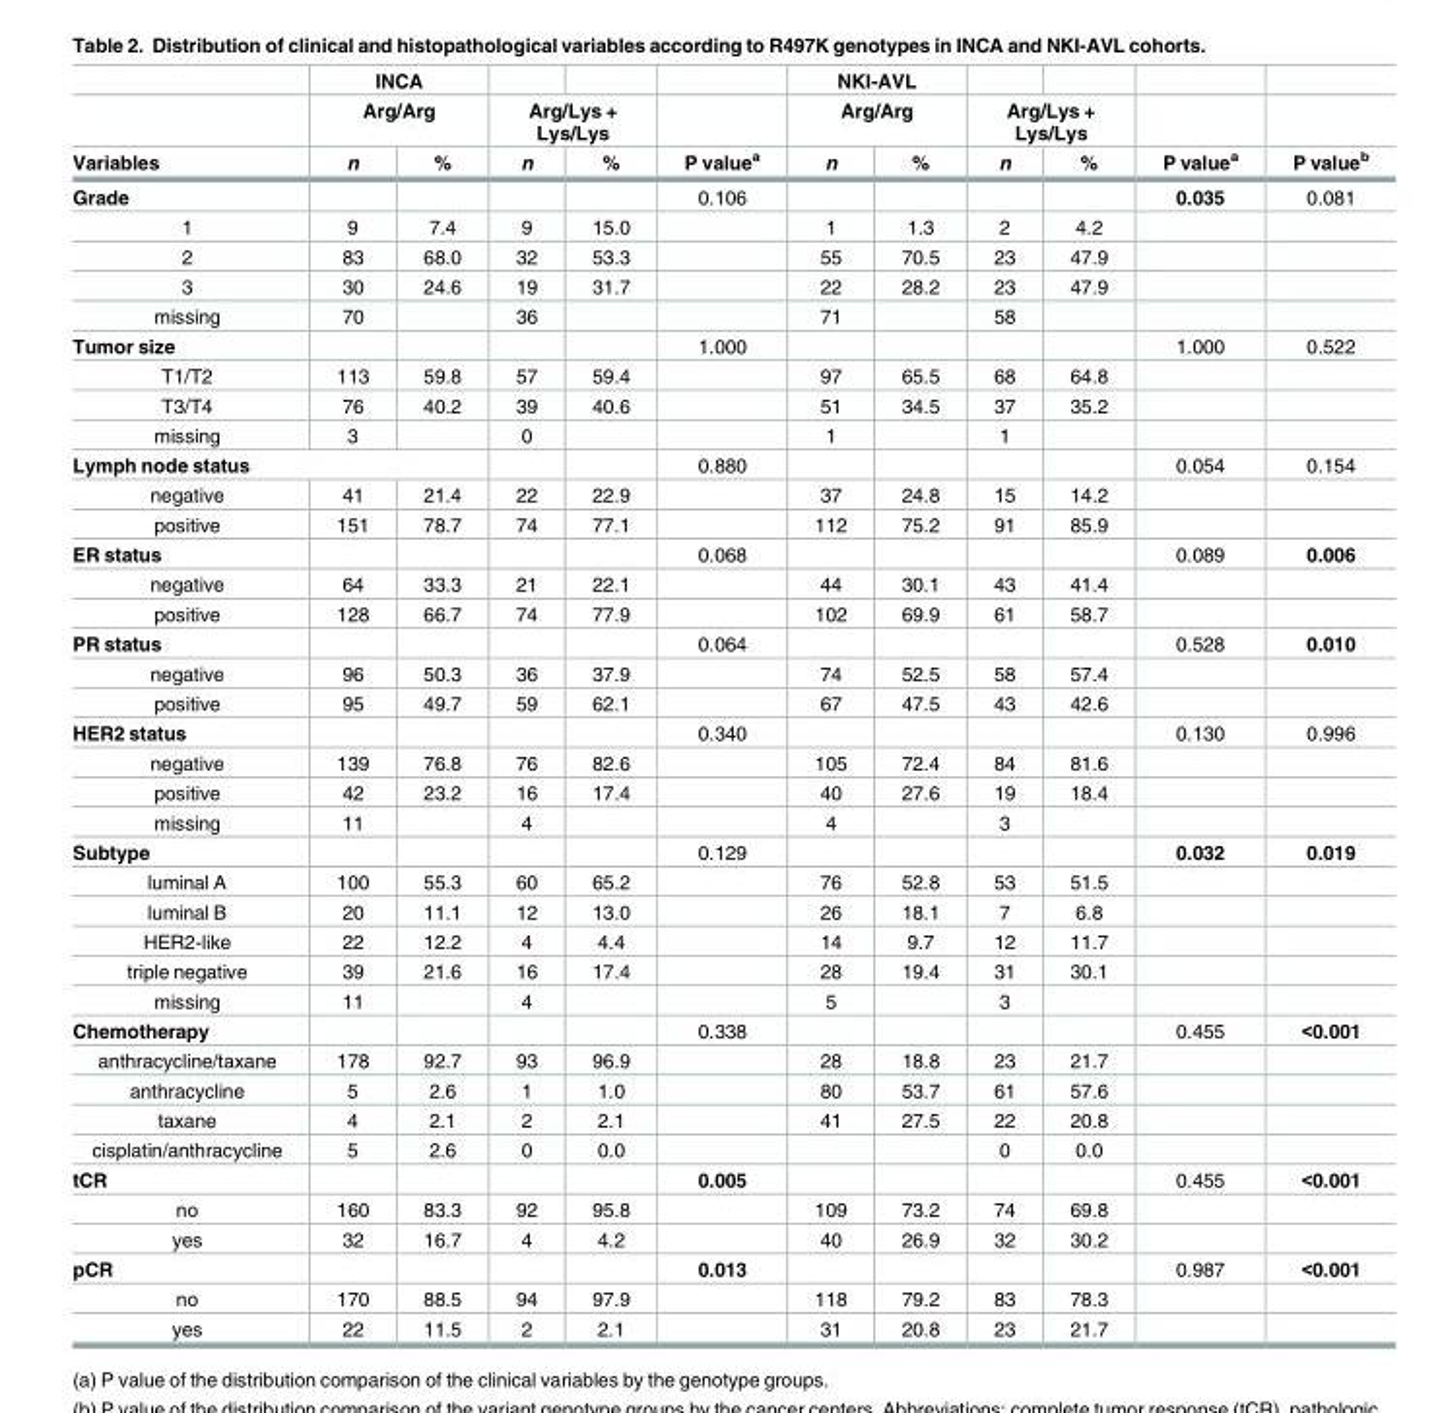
<table><thead><tr><td rowspan="3">Variables</td><td rowspan="2" colspan="2">INCA Arg/Arg</td><td></td><td></td><td rowspan="3">P value<sup>a</sup></td><td rowspan="2" colspan="2">NKI-AVL Arg/Arg</td><td></td><td></td><td rowspan="3">P value<sup>a</sup></td><td rowspan="3">P value<sup>b</sup></td></tr><tr><td colspan="2">Arg/Lys + Lys/Lys</td><td colspan="2">Arg/Lys + Lys/Lys</td></tr><tr><td>n</td><td>%</td><td>n</td><td>%</td><td>n</td><td>%</td><td>n</td><td>%</td></tr></thead><tbody><tr><td>Grade</td><td></td><td></td><td></td><td></td><td>0.106</td><td></td><td></td><td></td><td></td><td>0.035</td><td>0.081</td></tr><tr><td>1</td><td>9</td><td>7.4</td><td>9</td><td>15.0</td><td></td><td>1</td><td>1.3</td><td>2</td><td>4.2</td><td></td><td></td></tr><tr><td>2</td><td>83</td><td>68.0</td><td>32</td><td>53.3</td><td></td><td>55</td><td>70.5</td><td>23</td><td>47.9</td><td></td><td></td></tr><tr><td>3</td><td>30</td><td>24.6</td><td>19</td><td>31.7</td><td></td><td>22</td><td>28.2</td><td>23</td><td>47.9</td><td></td><td></td></tr><tr><td>missing</td><td>70</td><td></td><td>36</td><td></td><td></td><td>71</td><td></td><td>58</td><td></td><td></td><td></td></tr><tr><td>Tumor size</td><td></td><td></td><td></td><td></td><td>1.000</td><td></td><td></td><td></td><td></td><td>1.000</td><td>0.522</td></tr><tr><td>T1/T2</td><td>113</td><td>59.8</td><td>57</td><td>59.4</td><td></td><td>97</td><td>65.5</td><td>68</td><td>64.8</td><td></td><td></td></tr><tr><td>T3/T4</td><td>76</td><td>40.2</td><td>39</td><td>40.6</td><td></td><td>51</td><td>34.5</td><td>37</td><td>35.2</td><td></td><td></td></tr><tr><td>missing</td><td>3</td><td></td><td>0</td><td></td><td></td><td>1</td><td></td><td>1</td><td></td><td></td><td></td></tr><tr><td colspan="3">Lymph node status</td><td></td><td></td><td>0.880</td><td></td><td></td><td></td><td></td><td>0.054</td><td>0.154</td></tr><tr><td>negative</td><td>41</td><td>21.4</td><td>22</td><td>22.9</td><td></td><td>37</td><td>24.8</td><td>15</td><td>14.2</td><td></td><td></td></tr><tr><td>positive</td><td>151</td><td>78.7</td><td>74</td><td>77.1</td><td></td><td>112</td><td>75.2</td><td>91</td><td>85.9</td><td></td><td></td></tr><tr><td>ER status</td><td></td><td></td><td></td><td></td><td>0.068</td><td></td><td></td><td></td><td></td><td>0.089</td><td>0.006</td></tr><tr><td>negative</td><td>64</td><td>33.3</td><td>21</td><td>22.1</td><td></td><td>44</td><td>30.1</td><td>43</td><td>41.4</td><td></td><td></td></tr><tr><td>positive</td><td>128</td><td>66.7</td><td>74</td><td>77.9</td><td></td><td>102</td><td>69.9</td><td>61</td><td>58.7</td><td></td><td></td></tr><tr><td>PR status</td><td></td><td></td><td></td><td></td><td>0.064</td><td></td><td></td><td></td><td></td><td>0.528</td><td>0.010</td></tr><tr><td>negative</td><td>96</td><td>50.3</td><td>36</td><td>37.9</td><td></td><td>74</td><td>52.5</td><td>58</td><td>57.4</td><td></td><td></td></tr><tr><td>positive</td><td>95</td><td>49.7</td><td>59</td><td>62.1</td><td></td><td>67</td><td>47.5</td><td>43</td><td>42.6</td><td></td><td></td></tr><tr><td>HER2 status</td><td></td><td></td><td></td><td></td><td>0.340</td><td></td><td></td><td></td><td></td><td>0.130</td><td>0.996</td></tr><tr><td>negative</td><td>139</td><td>76.8</td><td>76</td><td>82.6</td><td></td><td>105</td><td>72.4</td><td>84</td><td>81.6</td><td></td><td></td></tr><tr><td>positive</td><td>42</td><td>23.2</td><td>16</td><td>17.4</td><td></td><td>40</td><td>27.6</td><td>19</td><td>18.4</td><td></td><td></td></tr><tr><td>missing</td><td>11</td><td></td><td>4</td><td></td><td></td><td>4</td><td></td><td>3</td><td></td><td></td><td></td></tr><tr><td>Subtype</td><td></td><td></td><td></td><td></td><td>0.129</td><td></td><td></td><td></td><td></td><td>0.032</td><td>0.019</td></tr><tr><td>luminal A</td><td>100</td><td>55.3</td><td>60</td><td>65.2</td><td></td><td>76</td><td>52.8</td><td>53</td><td>51.5</td><td></td><td></td></tr><tr><td>luminal B</td><td>20</td><td>11.1</td><td>12</td><td>13.0</td><td></td><td>26</td><td>18.1</td><td>7</td><td>6.8</td><td></td><td></td></tr><tr><td>HER2-like</td><td>22</td><td>12.2</td><td>4</td><td>4.4</td><td></td><td>14</td><td>9.7</td><td>12</td><td>11.7</td><td></td><td></td></tr><tr><td>triple negative</td><td>39</td><td>21.6</td><td>16</td><td>17.4</td><td></td><td>28</td><td>19.4</td><td>31</td><td>30.1</td><td></td><td></td></tr><tr><td>missing</td><td>11</td><td></td><td>4</td><td></td><td></td><td>5</td><td></td><td>3</td><td></td><td></td><td></td></tr><tr><td>Chemotherapy</td><td></td><td></td><td></td><td></td><td>0.338</td><td></td><td></td><td></td><td></td><td>0.455</td><td>&lt;0.001</td></tr><tr><td>anthracycline/taxane</td><td>178</td><td>92.7</td><td>93</td><td>96.9</td><td></td><td>28</td><td>18.8</td><td>23</td><td>21.7</td><td></td><td></td></tr><tr><td>anthracycline</td><td>5</td><td>2.6</td><td>1</td><td>1.0</td><td></td><td>80</td><td>53.7</td><td>61</td><td>57.6</td><td></td><td></td></tr><tr><td>taxane</td><td>4</td><td>2.1</td><td>2</td><td>2.1</td><td></td><td>41</td><td>27.5</td><td>22</td><td>20.8</td><td></td><td></td></tr><tr><td>cisplatin/anthracycline</td><td>5</td><td>2.6</td><td>0</td><td>0.0</td><td></td><td></td><td></td><td>0</td><td>0.0</td><td></td><td></td></tr><tr><td>tCR</td><td></td><td></td><td></td><td></td><td>0.005</td><td></td><td></td><td></td><td></td><td>0.455</td><td>&lt;0.001</td></tr><tr><td>no</td><td>160</td><td>83.3</td><td>92</td><td>95.8</td><td></td><td>109</td><td>73.2</td><td>74</td><td>69.8</td><td></td><td></td></tr><tr><td>yes</td><td>32</td><td>16.7</td><td>4</td><td>4.2</td><td></td><td>40</td><td>26.9</td><td>32</td><td>30.2</td><td></td><td></td></tr><tr><td>pCR</td><td></td><td></td><td></td><td></td><td>0.013</td><td></td><td></td><td></td><td></td><td>0.987</td><td>&lt;0.001</td></tr><tr><td>no</td><td>170</td><td>88.5</td><td>94</td><td>97.9</td><td></td><td>118</td><td>79.2</td><td>83</td><td>78.3</td><td></td><td></td></tr><tr><td>yes</td><td>22</td><td>11.5</td><td>2</td><td>2.1</td><td></td><td>31</td><td>20.8</td><td>23</td><td>21.7</td><td></td><td></td></tr></tbody></table>